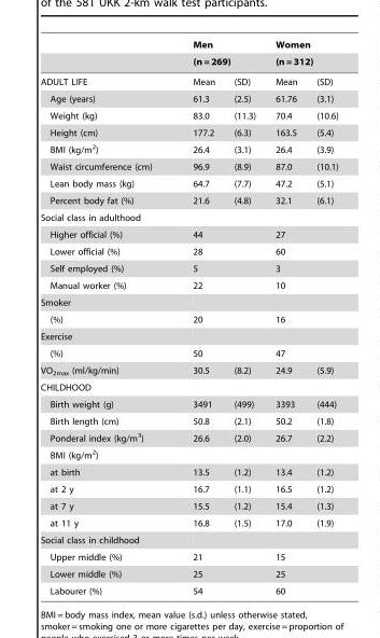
<table><thead><tr><td rowspan="3">ADULT LIFE</td><td rowspan="2" colspan="2">Men (n = 269)</td><td rowspan="2" colspan="2">Women (n = 312)</td></tr><tr></tr><tr><td>Mean</td><td>(SD)</td><td>Mean</td><td>(SD)</td></tr></thead><tbody><tr><td>Age (years)</td><td>61.3</td><td>(2.5)</td><td>61.76</td><td>(3.1)</td></tr><tr><td>Weight (kg)</td><td>83.0</td><td>(11.3)</td><td>70.4</td><td>(10.6)</td></tr><tr><td>Height (cm)</td><td>177.2</td><td>(6.3)</td><td>163.5</td><td>(5.4)</td></tr><tr><td>BMI (kg/m<sup>2</sup>)</td><td>26.4</td><td>(3.1)</td><td>26.4</td><td>(3.9)</td></tr><tr><td>Waist circumference (cm)</td><td>96.9</td><td>(8.9)</td><td>87.0</td><td>(10.1)</td></tr><tr><td>Lean body mass (kg)</td><td>64.7</td><td>(7.7)</td><td>47.2</td><td>(5.1)</td></tr><tr><td>Percent body fat (%)</td><td>21.6</td><td>(4.8)</td><td>32.1</td><td>(6.1)</td></tr><tr><td colspan="5">Social class in adulthood</td></tr><tr><td>Higher official (%)</td><td colspan="2">44</td><td colspan="2">27</td></tr><tr><td>Lower official (%)</td><td colspan="2">28</td><td colspan="2">60</td></tr><tr><td>Self employed (%)</td><td colspan="2">5</td><td colspan="2">3</td></tr><tr><td>Manual worker (%)</td><td colspan="2">22</td><td colspan="2">10</td></tr><tr><td colspan="5">Smoker</td></tr><tr><td>(%)</td><td colspan="2">20</td><td colspan="2">16</td></tr><tr><td colspan="5">Exercise</td></tr><tr><td>(%)</td><td colspan="2">50</td><td colspan="2">47</td></tr><tr><td>VO<sub>2max</sub> (ml/kg/min)</td><td>30.5</td><td>(8.2)</td><td>24.9</td><td>(5.9)</td></tr><tr><td colspan="5">CHILDHOOD</td></tr><tr><td>Birth weight (g)</td><td>3491</td><td>(499)</td><td>3393</td><td>(444)</td></tr><tr><td>Birth length (cm)</td><td>50.8</td><td>(2.1)</td><td>50.2</td><td>(1.8)</td></tr><tr><td>Ponderal index (kg/m<sup>3</sup>)</td><td>26.6</td><td>(2.0)</td><td>26.7</td><td>(2.2)</td></tr><tr><td colspan="5">BMI (kg/m<sup>2</sup>)</td></tr><tr><td>at birth</td><td>13.5</td><td>(1.2)</td><td>13.4</td><td>(1.2)</td></tr><tr><td>at 2 y</td><td>16.7</td><td>(1.1)</td><td>16.5</td><td>(1.2)</td></tr><tr><td>at 7 y</td><td>15.5</td><td>(1.2)</td><td>15.4</td><td>(1.3)</td></tr><tr><td>at 11 y</td><td>16.8</td><td>(1.5)</td><td>17.0</td><td>(1.9)</td></tr><tr><td colspan="5">Social class in childhood</td></tr><tr><td>Upper middle (%)</td><td colspan="2">21</td><td colspan="2">15</td></tr><tr><td>Lower middle (%)</td><td colspan="2">25</td><td colspan="2">25</td></tr><tr><td>Labourer (%)</td><td colspan="2">54</td><td colspan="2">60</td></tr></tbody></table>